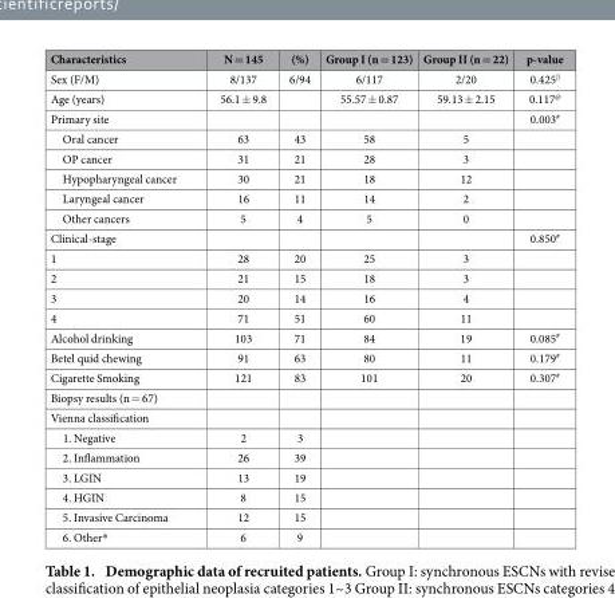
<table><thead><tr><td>Characteristics</td><td>N = 145</td><td>(%)</td><td>Group I (n = 123)</td><td>Group II (n = 22)</td><td>p-value</td></tr></thead><tbody><tr><td>Sex (F/M)</td><td>8/137</td><td>6/94</td><td>6/117</td><td>2/20</td><td>0.425<sup>β</sup></td></tr><tr><td>Age (years)</td><td>56.1 ± 9.8</td><td></td><td>55.57 ± 0.87</td><td>59.13 ± 2.15</td><td>0.117<sup>@</sup></td></tr><tr><td>Primary site</td><td></td><td></td><td></td><td></td><td>0.003<sup>#</sup></td></tr><tr><td>Oral cancer</td><td>63</td><td>43</td><td>58</td><td>5</td><td></td></tr><tr><td>OP cancer</td><td>31</td><td>21</td><td>28</td><td>3</td><td></td></tr><tr><td>Hypopharyngeal cancer</td><td>30</td><td>21</td><td>18</td><td>12</td><td></td></tr><tr><td>Laryngeal cancer</td><td>16</td><td>11</td><td>14</td><td>2</td><td></td></tr><tr><td>Other cancers</td><td>5</td><td>4</td><td>5</td><td>0</td><td></td></tr><tr><td>Clinical-stage</td><td></td><td></td><td></td><td></td><td>0.850<sup>#</sup></td></tr><tr><td>1</td><td>28</td><td>20</td><td>25</td><td>3</td><td></td></tr><tr><td>2</td><td>21</td><td>15</td><td>18</td><td>3</td><td></td></tr><tr><td>3</td><td>20</td><td>14</td><td>16</td><td>4</td><td></td></tr><tr><td>4</td><td>71</td><td>51</td><td>60</td><td>11</td><td></td></tr><tr><td>Alcohol drinking</td><td>103</td><td>71</td><td>84</td><td>19</td><td>0.085<sup>#</sup></td></tr><tr><td>Betel quid chewing</td><td>91</td><td>63</td><td>80</td><td>11</td><td>0.179<sup>#</sup></td></tr><tr><td>Cigarette Smoking</td><td>121</td><td>83</td><td>101</td><td>20</td><td>0.307<sup>#</sup></td></tr><tr><td colspan="6">Biopsy results (n = 67)</td></tr><tr><td colspan="6">Vienna classification</td></tr><tr><td>1. Negative</td><td>2</td><td>3</td><td></td><td></td><td></td></tr><tr><td>2. Inflammation</td><td>26</td><td>39</td><td></td><td></td><td></td></tr><tr><td>3. LGIN</td><td>13</td><td>19</td><td></td><td></td><td></td></tr><tr><td>4. HGIN</td><td>8</td><td>15</td><td></td><td></td><td></td></tr><tr><td>5. Invasive Carcinoma</td><td>12</td><td>15</td><td></td><td></td><td></td></tr><tr><td>6. Other*</td><td>6</td><td>9</td><td></td><td></td><td></td></tr></tbody></table>